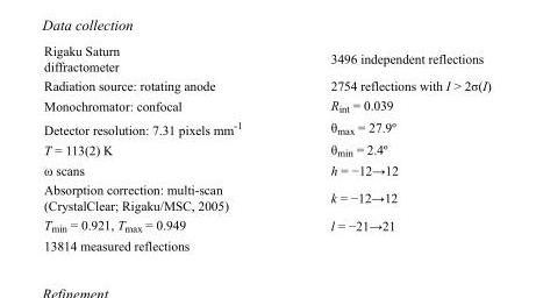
<table><tbody><tr><td>Rigaku Saturn diffractometer</td><td>3496 independent reflections</td></tr><tr><td>Radiation source: rotating anode</td><td>2754 reflections with I &gt; 2σ(I)</td></tr><tr><td>Monochromator: confocal</td><td>R<sub>int</sub> = 0.039</td></tr><tr><td>Detector resolution: 7.31 pixels mm<sup>-1</sup></td><td>θ<sub>max</sub> = 27.9º</td></tr><tr><td>T = 113(2) K</td><td>θ<sub>min</sub> = 2.4º</td></tr><tr><td>ω scans</td><td>h = −12→12</td></tr><tr><td>Absorption correction: multi-scan (CrystalClear; Rigaku/MSC, 2005)</td><td>k = −12→12</td></tr><tr><td>T<sub>min</sub> = 0.921, T<sub>max</sub> = 0.949</td><td>l = −21→21</td></tr><tr><td>13814 measured reflections</td><td></td></tr></tbody></table>